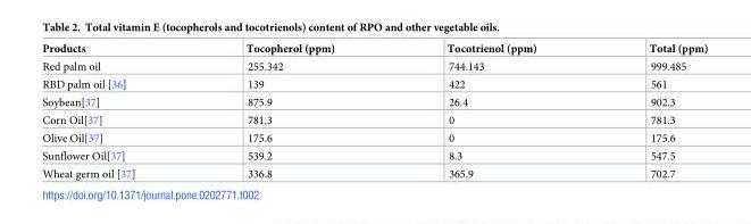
<table><thead><tr><td>Products</td><td>Tocopherol (ppm)</td><td>Tocotrienol (ppm)</td><td>Total (ppm)</td></tr></thead><tbody><tr><td>Red palm oil</td><td>255.342</td><td>744.143</td><td>999.485</td></tr><tr><td>RBD palm oil [36]</td><td>139</td><td>422</td><td>561</td></tr><tr><td>Soybean[37]</td><td>875.9</td><td>26.4</td><td>902.3</td></tr><tr><td>Corn Oil[37]</td><td>781.3</td><td>0</td><td>781.3</td></tr><tr><td>Olive Oil[37]</td><td>175.6</td><td>0</td><td>175.6</td></tr><tr><td>Sunflower Oil[37]</td><td>539.2</td><td>8.3</td><td>547.5</td></tr><tr><td>Wheat germ oil [37]</td><td>336.8</td><td>365.9</td><td>702.7</td></tr></tbody></table>